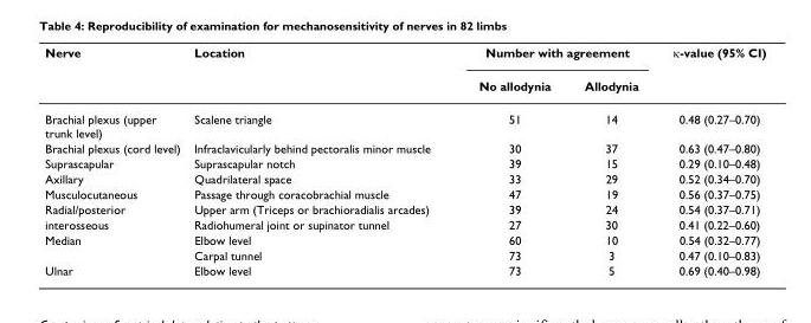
<table><thead><tr><td rowspan="2">Nerve</td><td rowspan="2">Location</td><td colspan="2">Number with agreement</td><td rowspan="2">κ-value (95% CI)</td></tr><tr><td>No allodynia</td><td>Allodynia</td></tr></thead><tbody><tr><td>Brachial plexus (upper trunk level)</td><td>Scalene triangle</td><td>51</td><td>14</td><td>0.48 (0.27–0.70)</td></tr><tr><td>Brachial plexus (cord level)</td><td>Infraclavicularly behind pectoralis minor muscle</td><td>30</td><td>37</td><td>0.63 (0.47–0.80)</td></tr><tr><td>Suprascapular</td><td>Suprascapular notch</td><td>39</td><td>15</td><td>0.29 (0.10–0.48)</td></tr><tr><td>Axillary</td><td>Quadrilateral space</td><td>33</td><td>29</td><td>0.52 (0.34–0.70)</td></tr><tr><td>Musculocutaneous</td><td>Passage through coracobrachial muscle</td><td>47</td><td>19</td><td>0.56 (0.37–0.75)</td></tr><tr><td>Radial/posterior</td><td>Upper arm (Triceps or brachioradialis arcades)</td><td>39</td><td>24</td><td>0.54 (0.37–0.71)</td></tr><tr><td>interosseous</td><td>Radiohumeral joint or supinator tunnel</td><td>27</td><td>30</td><td>0.41 (0.22–0.60)</td></tr><tr><td rowspan="2">Median</td><td>Elbow level</td><td>60</td><td>10</td><td>0.54 (0.32–0.77)</td></tr><tr><td>Carpal tunnel</td><td>73</td><td>3</td><td>0.47 (0.10–0.83)</td></tr><tr><td>Ulnar</td><td>Elbow level</td><td>73</td><td>5</td><td>0.69 (0.40–0.98)</td></tr></tbody></table>